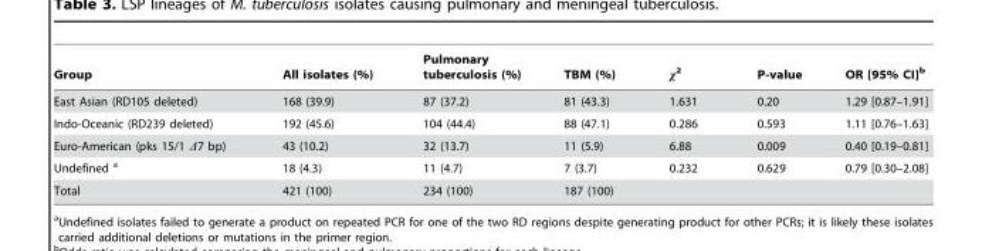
<table><thead><tr><td>Group</td><td>All isolates (%)</td><td>Pulmonary tuberculosis (%)</td><td>TBM (%)</td><td>χ<sup>2</sup></td><td>P-value</td><td>OR [95% CI]<sup>b</sup></td></tr></thead><tbody><tr><td>East Asian (RD105 deleted)</td><td>168 (39.9)</td><td>87 (37.2)</td><td>81 (43.3)</td><td>1.631</td><td>0.20</td><td>1.29 [0.87–1.91]</td></tr><tr><td>Indo-Oceanic (RD239 deleted)</td><td>192 (45.6)</td><td>104 (44.4)</td><td>88 (47.1)</td><td>0.286</td><td>0.593</td><td>1.11 [0.76–1.63]</td></tr><tr><td>Euro-American (pks 15/1 Δ7 bp)</td><td>43 (10.2)</td><td>32 (13.7)</td><td>11 (5.9)</td><td>6.88</td><td>0.009</td><td>0.40 [0.19–0.81]</td></tr><tr><td>Undefined a</td><td>18 (4.3)</td><td>11 (4.7)</td><td>7 (3.7)</td><td>0.232</td><td>0.629</td><td>0.79 [0.30–2.08]</td></tr><tr><td>Total</td><td>421 (100)</td><td>234 (100)</td><td>187 (100)</td><td></td><td></td><td></td></tr></tbody></table>